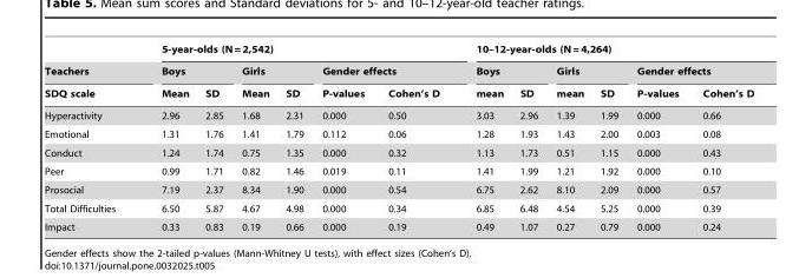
<table><thead><tr><td rowspan="3">Teachers SDQ scale</td><td colspan="6">5-year-olds (N = 2,542)</td><td colspan="6">10–12-year-olds (N = 4,264)</td></tr><tr><td colspan="2">Boys</td><td colspan="2">Girls</td><td colspan="2">Gender effects</td><td colspan="2">Boys</td><td colspan="2">Girls</td><td colspan="2">Gender effects</td></tr><tr><td>Mean</td><td>SD</td><td>Mean</td><td>SD</td><td>P-values</td><td>Cohen’s D</td><td>mean</td><td>SD</td><td>mean</td><td>SD</td><td>P-values</td><td>Cohen’s D</td></tr></thead><tbody><tr><td>Hyperactivity</td><td>2.96</td><td>2.85</td><td>1.68</td><td>2.31</td><td>0.000</td><td>0.50</td><td>3.03</td><td>2.96</td><td>1.39</td><td>1.99</td><td>0.000</td><td>0.66</td></tr><tr><td>Emotional</td><td>1.31</td><td>1.76</td><td>1.41</td><td>1.79</td><td>0.112</td><td>0.06</td><td>1.28</td><td>1.93</td><td>1.43</td><td>2.00</td><td>0.003</td><td>0.08</td></tr><tr><td>Conduct</td><td>1.24</td><td>1.74</td><td>0.75</td><td>1.35</td><td>0.000</td><td>0.32</td><td>1.13</td><td>1.73</td><td>0.51</td><td>1.15</td><td>0.000</td><td>0.43</td></tr><tr><td>Peer</td><td>0.99</td><td>1.71</td><td>0.82</td><td>1.46</td><td>0.019</td><td>0.11</td><td>1.41</td><td>1.99</td><td>1.21</td><td>1.92</td><td>0.000</td><td>0.10</td></tr><tr><td>Prosocial</td><td>7.19</td><td>2.37</td><td>8.34</td><td>1.90</td><td>0.000</td><td>0.54</td><td>6.75</td><td>2.62</td><td>8.10</td><td>2.09</td><td>0.000</td><td>0.57</td></tr><tr><td>Total Difficulties</td><td>6.50</td><td>5.87</td><td>4.67</td><td>4.98</td><td>0.000</td><td>0.34</td><td>6.85</td><td>6.48</td><td>4.54</td><td>5.25</td><td>0.000</td><td>0.39</td></tr><tr><td>Impact</td><td>0.33</td><td>0.83</td><td>0.19</td><td>0.66</td><td>0.000</td><td>0.19</td><td>0.49</td><td>1.07</td><td>0.27</td><td>0.79</td><td>0.000</td><td>0.24</td></tr></tbody></table>